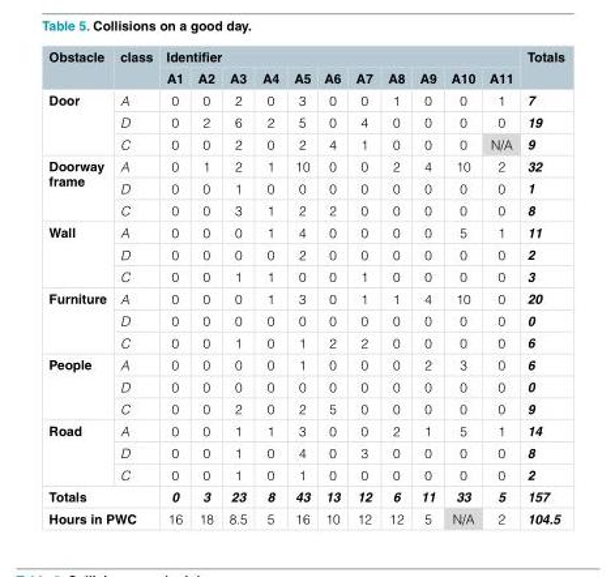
<table><thead><tr><td rowspan="2">Obstacle</td><td rowspan="2">class</td><td colspan="11">Identifier</td><td rowspan="2">Totals</td></tr><tr><td>A1</td><td>A2</td><td>A3</td><td>A4</td><td>A5</td><td>A6</td><td>A7</td><td>A8</td><td>A9</td><td>A10</td><td>A11</td></tr></thead><tbody><tr><td rowspan="3">Door</td><td>A</td><td>0</td><td>0</td><td>2</td><td>0</td><td>3</td><td>0</td><td>0</td><td>1</td><td>0</td><td>0</td><td>1</td><td>7</td></tr><tr><td>D</td><td>0</td><td>2</td><td>6</td><td>2</td><td>5</td><td>0</td><td>4</td><td>0</td><td>0</td><td>0</td><td>0</td><td>19</td></tr><tr><td>C</td><td>0</td><td>0</td><td>2</td><td>0</td><td>2</td><td>4</td><td>1</td><td>0</td><td>0</td><td>0</td><td>N/A</td><td>9</td></tr><tr><td rowspan="3">Doorway frame</td><td>A</td><td>0</td><td>1</td><td>2</td><td>1</td><td>10</td><td>0</td><td>0</td><td>2</td><td>4</td><td>10</td><td>2</td><td>32</td></tr><tr><td>D</td><td>0</td><td>0</td><td>1</td><td>0</td><td>0</td><td>0</td><td>0</td><td>0</td><td>0</td><td>0</td><td>0</td><td>1</td></tr><tr><td>C</td><td>0</td><td>0</td><td>3</td><td>1</td><td>2</td><td>2</td><td>0</td><td>0</td><td>0</td><td>0</td><td>0</td><td>8</td></tr><tr><td rowspan="3">Wall</td><td>A</td><td>0</td><td>0</td><td>0</td><td>1</td><td>4</td><td>0</td><td>0</td><td>0</td><td>0</td><td>5</td><td>1</td><td>11</td></tr><tr><td>D</td><td>0</td><td>0</td><td>0</td><td>0</td><td>2</td><td>0</td><td>0</td><td>0</td><td>0</td><td>0</td><td>0</td><td>2</td></tr><tr><td>C</td><td>0</td><td>0</td><td>1</td><td>1</td><td>0</td><td>0</td><td>1</td><td>0</td><td>0</td><td>0</td><td>0</td><td>3</td></tr><tr><td rowspan="3">Furniture</td><td>A</td><td>0</td><td>0</td><td>0</td><td>1</td><td>3</td><td>0</td><td>1</td><td>1</td><td>4</td><td>10</td><td>0</td><td>20</td></tr><tr><td>D</td><td>0</td><td>0</td><td>0</td><td>0</td><td>0</td><td>0</td><td>0</td><td>0</td><td>0</td><td>0</td><td>0</td><td>0</td></tr><tr><td>C</td><td>0</td><td>0</td><td>1</td><td>0</td><td>1</td><td>2</td><td>2</td><td>0</td><td>0</td><td>0</td><td>0</td><td>6</td></tr><tr><td rowspan="3">People</td><td>A</td><td>0</td><td>0</td><td>0</td><td>0</td><td>1</td><td>0</td><td>0</td><td>0</td><td>2</td><td>3</td><td>0</td><td>6</td></tr><tr><td>D</td><td>0</td><td>0</td><td>0</td><td>0</td><td>0</td><td>0</td><td>0</td><td>0</td><td>0</td><td>0</td><td>0</td><td>0</td></tr><tr><td>C</td><td>0</td><td>0</td><td>2</td><td>0</td><td>2</td><td>5</td><td>0</td><td>0</td><td>0</td><td>0</td><td>0</td><td>9</td></tr><tr><td rowspan="3">Road</td><td>A</td><td>0</td><td>0</td><td>1</td><td>1</td><td>3</td><td>0</td><td>0</td><td>2</td><td>1</td><td>5</td><td>1</td><td>14</td></tr><tr><td>D</td><td>0</td><td>0</td><td>1</td><td>0</td><td>4</td><td>0</td><td>3</td><td>0</td><td>0</td><td>0</td><td>0</td><td>8</td></tr><tr><td>C</td><td>0</td><td>0</td><td>1</td><td>0</td><td>1</td><td>0</td><td>0</td><td>0</td><td>0</td><td>0</td><td>0</td><td>2</td></tr><tr><td colspan="2">Totals</td><td>0</td><td>3</td><td>23</td><td>8</td><td>43</td><td>13</td><td>12</td><td>6</td><td>11</td><td>33</td><td>5</td><td>157</td></tr><tr><td colspan="2">Hours in PWC</td><td>16</td><td>18</td><td>8.5</td><td>5</td><td>16</td><td>10</td><td>12</td><td>12</td><td>5</td><td>N/A</td><td>2</td><td>104.5</td></tr></tbody></table>